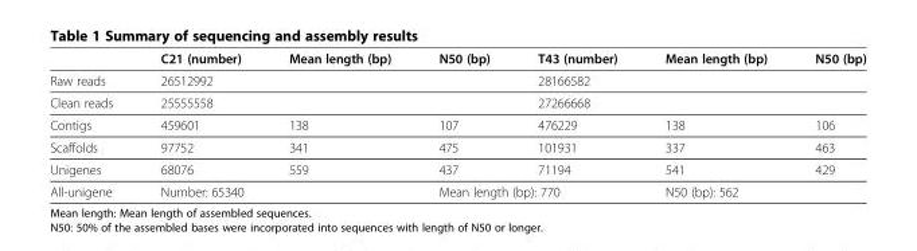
<table><thead><tr><td></td><td>C21 (number)</td><td>Mean length (bp)</td><td>N50 (bp)</td><td>T43 (number)</td><td>Mean length (bp)</td><td>N50 (bp)</td></tr></thead><tbody><tr><td>Raw reads</td><td>26512992</td><td></td><td></td><td>28166582</td><td></td><td></td></tr><tr><td>Clean reads</td><td>25555558</td><td></td><td></td><td>27266668</td><td></td><td></td></tr><tr><td>Contigs</td><td>459601</td><td>138</td><td>107</td><td>476229</td><td>138</td><td>106</td></tr><tr><td>Scaffolds</td><td>97752</td><td>341</td><td>475</td><td>101931</td><td>337</td><td>463</td></tr><tr><td>Unigenes</td><td>68076</td><td>559</td><td>437</td><td>71194</td><td>541</td><td>429</td></tr><tr><td>All-unigene</td><td colspan="2">Number: 65340</td><td colspan="2">Mean length (bp): 770</td><td colspan="2">N50 (bp): 562</td></tr></tbody></table>